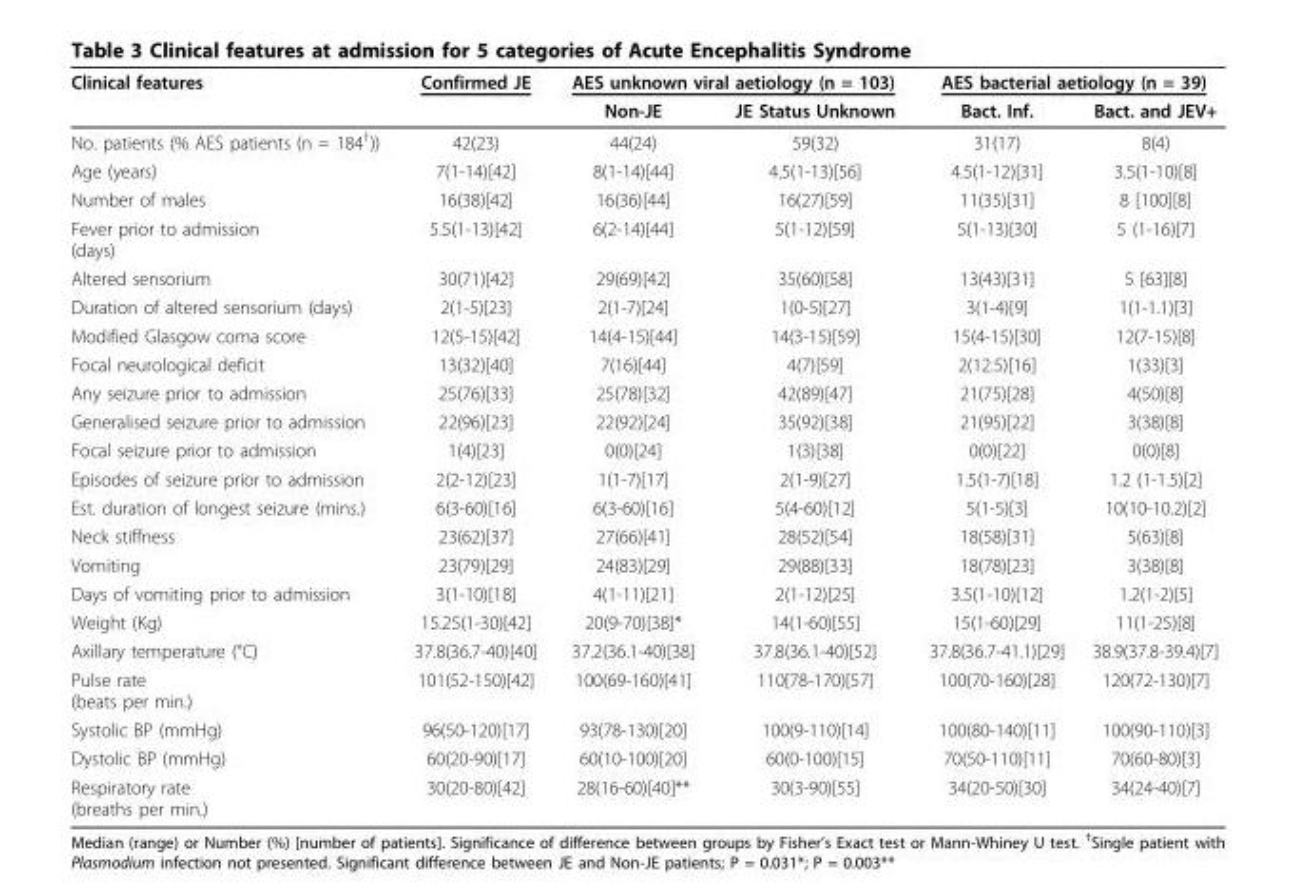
<table><thead><tr><td rowspan="2">Clinical features</td><td rowspan="2">Confirmed JE</td><td colspan="2">AES unknown viral aetiology (n = 103)</td><td colspan="2">AES bacterial aetiology (n = 39)</td></tr><tr><td>Non-JE</td><td>JE Status Unknown</td><td>Bact. Inf.</td><td>Bact. and JEV+</td></tr></thead><tbody><tr><td>No. patients (% AES patients (n = 184<sup>†</sup>))</td><td>42(23)</td><td>44(24)</td><td>59(32)</td><td>31(17)</td><td>8(4)</td></tr><tr><td>Age (years)</td><td>7(1-14)[42]</td><td>8(1-14)[44]</td><td>4.5(1-13)[56]</td><td>4.5(1-12)[31]</td><td>3.5(1-10)[8]</td></tr><tr><td>Number of males</td><td>16(38)[42]</td><td>16(36)[44]</td><td>16(27)[59]</td><td>11(35)[31]</td><td>8 [100][8]</td></tr><tr><td>Fever prior to admission (days)</td><td>5.5(1-13)[42]</td><td>6(2-14)[44]</td><td>5(1-12)[59]</td><td>5(1-13)[30]</td><td>5 (1-16)[7]</td></tr><tr><td>Altered sensorium</td><td>30(71)[42]</td><td>29(69)[42]</td><td>35(60)[58]</td><td>13(43)[31]</td><td>5 [63][8]</td></tr><tr><td>Duration of altered sensorium (days)</td><td>2(1-5)[23]</td><td>2(1-7)[24]</td><td>1(0-5)[27]</td><td>3(1-4)[9]</td><td>1(1-1.1)[3]</td></tr><tr><td>Modified Glasgow coma score</td><td>12(5-15)[42]</td><td>14(4-15)[44]</td><td>14(3-15)[59]</td><td>15(4-15)[30]</td><td>12(7-15)[8]</td></tr><tr><td>Focal neurological deficit</td><td>13(32)[40]</td><td>7(16)[44]</td><td>4(7)[59]</td><td>2(12.5)[16]</td><td>1(33)[3]</td></tr><tr><td>Any seizure prior to admission</td><td>25(76)[33]</td><td>25(78)[32]</td><td>42(89)[47]</td><td>21(75)[28]</td><td>4(50)[8]</td></tr><tr><td>Generalised seizure prior to admission</td><td>22(96)[23]</td><td>22(92)[24]</td><td>35(92)[38]</td><td>21(95)[22]</td><td>3(38)[8]</td></tr><tr><td>Focal seizure prior to admission</td><td>1(4)[23]</td><td>0(0)[24]</td><td>1(3)[38]</td><td>0(0)[22]</td><td>0(0)[8]</td></tr><tr><td>Episodes of seizure prior to admission</td><td>2(2-12)[23]</td><td>1(1-7)[17]</td><td>2(1-9)[27]</td><td>1.5(1-7)[18]</td><td>1.2 (1-1.5)[2]</td></tr><tr><td>Est. duration of longest seizure (mins.)</td><td>6(3-60)[16]</td><td>6(3-60)[16]</td><td>5(4-60)[12]</td><td>5(1-5)[3]</td><td>10(10-10.2)[2]</td></tr><tr><td>Neck stiffness</td><td>23(62)[37]</td><td>27(66)[41]</td><td>28(52)[54]</td><td>18(58)[31]</td><td>5(63)[8]</td></tr><tr><td>Vomiting</td><td>23(79)[29]</td><td>24(83)[29]</td><td>29(88)[33]</td><td>18(78)[23]</td><td>3(38)[8]</td></tr><tr><td>Days of vomiting prior to admission</td><td>3(1-10)[18]</td><td>4(1-11)[21]</td><td>2(1-12)[25]</td><td>3.5(1-10)[12]</td><td>1.2(1-2)[5]</td></tr><tr><td>Weight (Kg)</td><td>15.25(1-30)[42]</td><td>20(9-70)[38]*</td><td>14(1-60)[55]</td><td>15(1-60)[29]</td><td>11(1-25)[8]</td></tr><tr><td>Axillary temperature (°C)</td><td>37.8(36.7-40)[40]</td><td>37.2(36.1-40)[38]</td><td>37.8(36.1-40)[52]</td><td>37.8(36.7-41.1)[29]</td><td>38.9(37.8-39.4)[7]</td></tr><tr><td>Pulse rate (beats per min.)</td><td>101(52-150)[42]</td><td>100(69-160)[41]</td><td>110[78-170)[57]</td><td>100(70-160)[28]</td><td>120(72-130)[7]</td></tr><tr><td>Systolic BP (mmHg)</td><td>96(50-120)[17]</td><td>93(78-130)[20]</td><td>100(9-110)[14]</td><td>100(80-140)[11]</td><td>100(90-110)[3]</td></tr><tr><td>Dystolic BP (mmHg)</td><td>60(20-90)[17]</td><td>60(10-100)[20]</td><td>60(0-100)[15]</td><td>70(50-110)[11]</td><td>70(60-80)[3]</td></tr><tr><td>Respiratory rate (breaths per min.)</td><td>30(20-80)[42]</td><td>28(16-60)[40]**</td><td>30(3-90)[55]</td><td>34(20-50)[30]</td><td>34(24-40)[7]</td></tr></tbody></table>